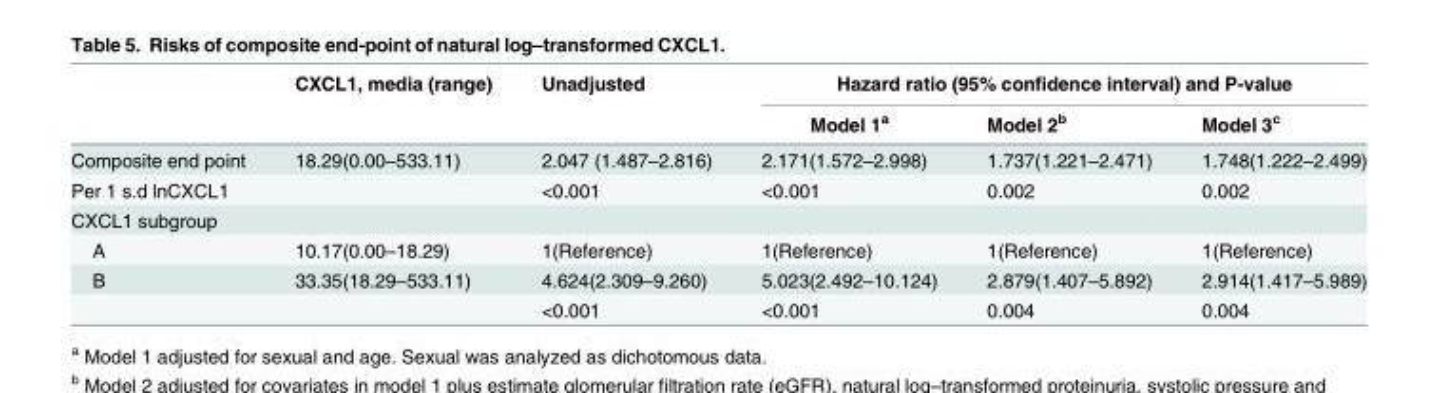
<table><thead><tr><td rowspan="2"></td><td rowspan="2">CXCL1, media (range)</td><td rowspan="2">Unadjusted</td><td colspan="3">Hazard ratio (95% confidence interval) and P-value</td></tr><tr><td>Model 1<sup>a</sup></td><td>Model 2<sup>b</sup></td><td>Model 3<sup>c</sup></td></tr></thead><tbody><tr><td>Composite end point</td><td>18.29(0.00–533.11)</td><td>2.047 (1.487–2.816)</td><td>2.171(1.572–2.998)</td><td>1.737(1.221–2.471)</td><td>1.748(1.222–2.499)</td></tr><tr><td>Per 1 s.d lnCXCL1</td><td></td><td>&lt;0.001</td><td>&lt;0.001</td><td>0.002</td><td>0.002</td></tr><tr><td colspan="6">CXCL1 subgroup</td></tr><tr><td>A</td><td>10.17(0.00–18.29)</td><td>1(Reference)</td><td>1(Reference)</td><td>1(Reference)</td><td>1(Reference)</td></tr><tr><td rowspan="2">B</td><td>33.35(18.29–533.11)</td><td>4.624(2.309–9.260)</td><td>5.023(2.492–10.124)</td><td>2.879(1.407–5.892)</td><td>2.914(1.417–5.989)</td></tr><tr><td></td><td>&lt;0.001</td><td>&lt;0.001</td><td>0.004</td><td>0.004</td></tr></tbody></table>